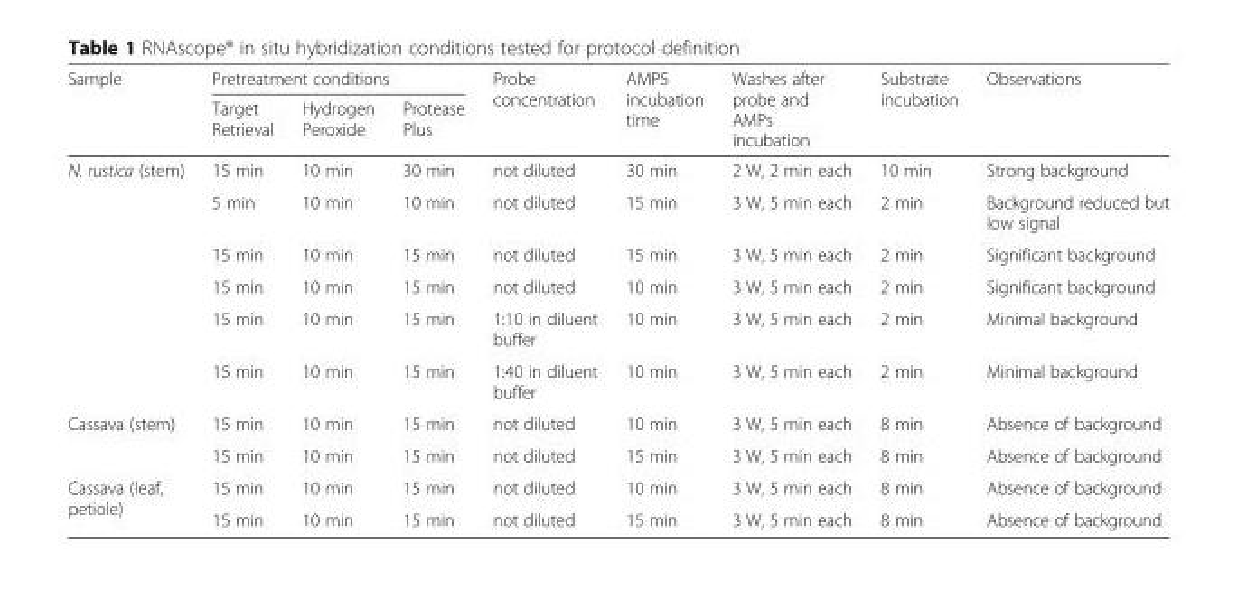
<table><thead><tr><td rowspan="2">Sample</td><td colspan="3">Pretreatment conditions</td><td rowspan="2">Probe concentration</td><td rowspan="2">AMP5 incubation time</td><td rowspan="2">Washes after probe and AMPs incubation</td><td rowspan="2">Substrate incubation</td><td rowspan="2">Observations</td></tr><tr><td>Target Retrieval</td><td>Hydrogen Peroxide</td><td>Protease Plus</td></tr></thead><tbody><tr><td rowspan="6">N. rustica (stem)</td><td>15 min</td><td>10 min</td><td>30 min</td><td>not diluted</td><td>30 min</td><td>2 W, 2 min each</td><td>10 min</td><td>Strong background</td></tr><tr><td>5 min</td><td>10 min</td><td>10 min</td><td>not diluted</td><td>15 min</td><td>3 W, 5 min each</td><td>2 min</td><td>Background reduced but low signal</td></tr><tr><td>15 min</td><td>10 min</td><td>15 min</td><td>not diluted</td><td>15 min</td><td>3 W, 5 min each</td><td>2 min</td><td>Significant background</td></tr><tr><td>15 min</td><td>10 min</td><td>15 min</td><td>not diluted</td><td>10 min</td><td>3 W, 5 min each</td><td>2 min</td><td>Significant background</td></tr><tr><td>15 min</td><td>10 min</td><td>15 min</td><td>1:10 in diluent buffer</td><td>10 min</td><td>3 W, 5 min each</td><td>2 min</td><td>Minimal background</td></tr><tr><td>15 min</td><td>10 min</td><td>15 min</td><td>1:40 in diluent buffer</td><td>10 min</td><td>3 W, 5 min each</td><td>2 min</td><td>Minimal background</td></tr><tr><td rowspan="2">Cassava (stem)</td><td>15 min</td><td>10 min</td><td>15 min</td><td>not diluted</td><td>10 min</td><td>3 W, 5 min each</td><td>8 min</td><td>Absence of background</td></tr><tr><td>15 min</td><td>10 min</td><td>15 min</td><td>not diluted</td><td>15 min</td><td>3 W, 5 min each</td><td>8 min</td><td>Absence of background</td></tr><tr><td rowspan="2">Cassava (leaf, petiole)</td><td>15 min</td><td>10 min</td><td>15 min</td><td>not diluted</td><td>10 min</td><td>3 W, 5 min each</td><td>8 min</td><td>Absence of background</td></tr><tr><td>15 min</td><td>10 min</td><td>15 min</td><td>not diluted</td><td>15 min</td><td>3 W, 5 min each</td><td>8 min</td><td>Absence of background</td></tr></tbody></table>